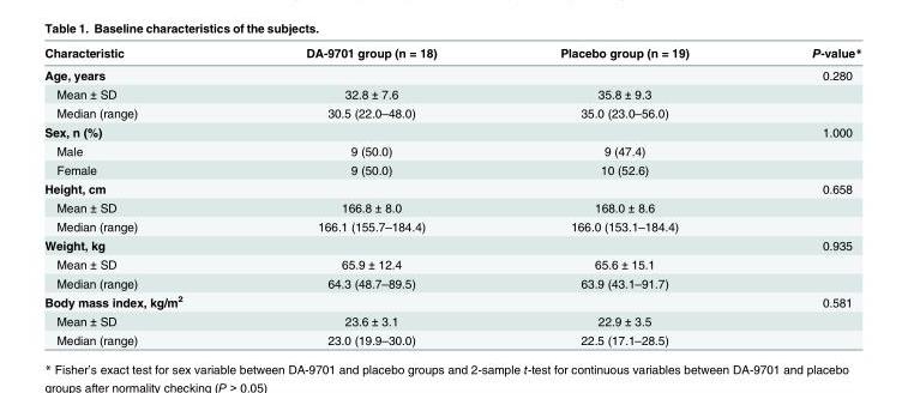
<table><thead><tr><td>Characteristic</td><td>DA-9701 group (n = 18)</td><td>Placebo group (n = 19)</td><td>P-value*</td></tr></thead><tbody><tr><td>Age, years</td><td></td><td></td><td>0.280</td></tr><tr><td>Mean ± SD</td><td>32.8 ± 7.6</td><td>35.8 ± 9.3</td><td></td></tr><tr><td>Median (range)</td><td>30.5 (22.0–48.0)</td><td>35.0 (23.0–56.0)</td><td></td></tr><tr><td>Sex, n (%)</td><td></td><td></td><td>1.000</td></tr><tr><td>Male</td><td>9 (50.0)</td><td>9 (47.4)</td><td></td></tr><tr><td>Female</td><td>9 (50.0)</td><td>10 (52.6)</td><td></td></tr><tr><td>Height, cm</td><td></td><td></td><td>0.658</td></tr><tr><td>Mean ± SD</td><td>166.8 ± 8.0</td><td>168.0 ± 8.6</td><td></td></tr><tr><td>Median (range)</td><td>166.1 (155.7–184.4)</td><td>166.0 (153.1–184.4)</td><td></td></tr><tr><td>Weight, kg</td><td></td><td></td><td>0.935</td></tr><tr><td>Mean ± SD</td><td>65.9 ± 12.4</td><td>65.6 ± 15.1</td><td></td></tr><tr><td>Median (range)</td><td>64.3 (48.7–89.5)</td><td>63.9 (43.1–91.7)</td><td></td></tr><tr><td>Body mass index, kg/m<sup>2</sup></td><td></td><td></td><td>0.581</td></tr><tr><td>Mean ± SD</td><td>23.6 ± 3.1</td><td>22.9 ± 3.5</td><td></td></tr><tr><td>Median (range)</td><td>23.0 (19.9–30.0)</td><td>22.5 (17.1–28.5)</td><td></td></tr></tbody></table>